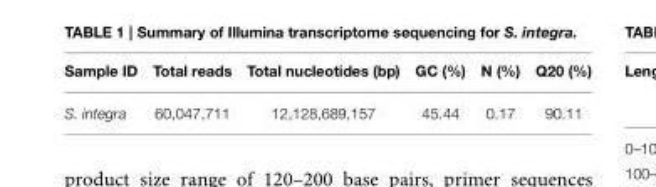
<table><thead><tr><td>Sample ID</td><td>Total reads</td><td>Total nucleotides (bp)</td><td>GC (%)</td><td>N (%)</td><td>Q20 (%)</td></tr></thead><tbody><tr><td>S. integra</td><td>60,047,711</td><td>12,128,689,157</td><td>45.44</td><td>0.17</td><td>90.11</td></tr></tbody></table>